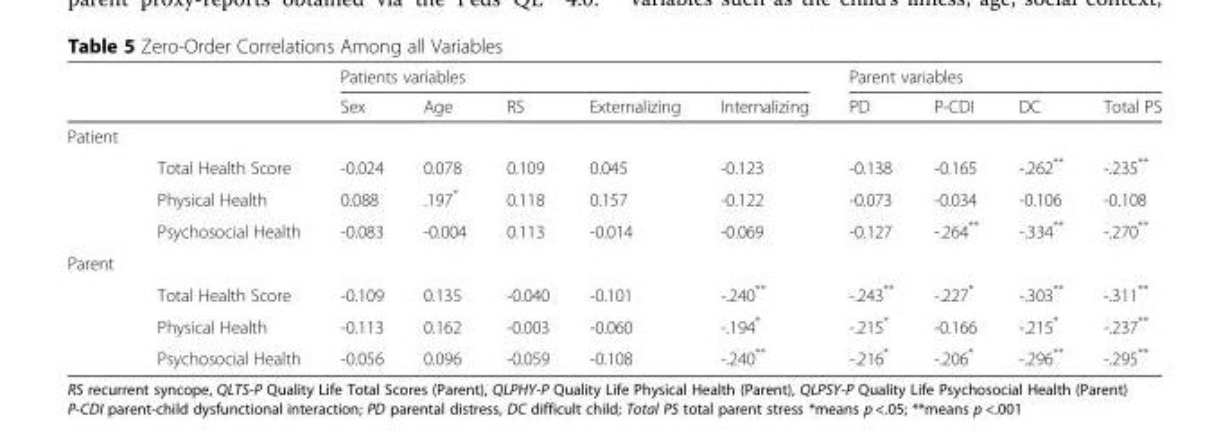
<table><thead><tr><td rowspan="2"></td><td rowspan="2"></td><td colspan="5">Patients variables</td><td colspan="4">Parent variables</td></tr><tr><td>Sex</td><td>Age</td><td>RS</td><td>Externalizing</td><td>Internalizing</td><td>PD</td><td>P-CDI</td><td>DC</td><td>Total PS</td></tr></thead><tbody><tr><td colspan="11">Patient</td></tr><tr><td></td><td>Total Health Score</td><td>-0.024</td><td>0.078</td><td>0.109</td><td>0.045</td><td>-0.123</td><td>-0.138</td><td>-0.165</td><td>-.262**</td><td>-.235**</td></tr><tr><td></td><td>Physical Health</td><td>0.088</td><td>.197*</td><td>0.118</td><td>0.157</td><td>-0.122</td><td>-0.073</td><td>-0.034</td><td>-0.106</td><td>-0.108</td></tr><tr><td></td><td>Psychosocial Health</td><td>-0.083</td><td>-0.004</td><td>0.113</td><td>-0.014</td><td>-0.069</td><td>-0.127</td><td>-.264**</td><td>-.334**</td><td>-.270**</td></tr><tr><td colspan="11">Parent</td></tr><tr><td></td><td>Total Health Score</td><td>-0.109</td><td>0.135</td><td>-0.040</td><td>-0.101</td><td>-.240**</td><td>-.243**</td><td>-.227*</td><td>-.303**</td><td>-.311**</td></tr><tr><td></td><td>Physical Health</td><td>-0.113</td><td>0.162</td><td>-0.003</td><td>-0.060</td><td>-.194*</td><td>-.215*</td><td>-0.166</td><td>-.215*</td><td>-.237**</td></tr><tr><td></td><td>Psychosocial Health</td><td>-0.056</td><td>0.096</td><td>-0.059</td><td>-0.108</td><td>-.240**</td><td>-.216*</td><td>-.206*</td><td>-.296**</td><td>-.295**</td></tr></tbody></table>